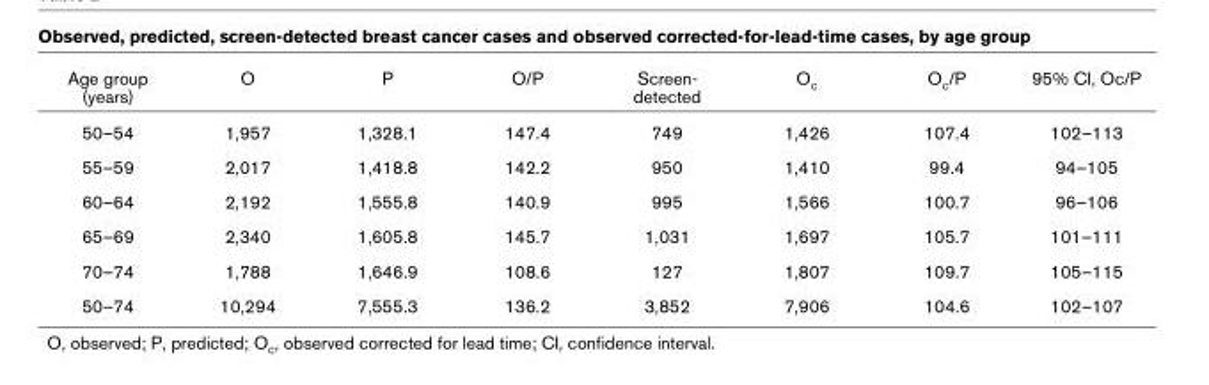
<table><thead><tr><td>Age group (years)</td><td>O</td><td>P</td><td>O/P</td><td>Screen- detected</td><td>Oc</td><td>Oc/P</td><td>95% CI, Oc/P</td></tr></thead><tbody><tr><td>50–54</td><td>1,957</td><td>1,328.1</td><td>147.4</td><td>749</td><td>1,426</td><td>107.4</td><td>102–113</td></tr><tr><td>55–59</td><td>2,017</td><td>1,418.8</td><td>142.2</td><td>950</td><td>1,410</td><td>99.4</td><td>94–105</td></tr><tr><td>60–64</td><td>2,192</td><td>1,555.8</td><td>140.9</td><td>995</td><td>1,566</td><td>100.7</td><td>96–106</td></tr><tr><td>65–69</td><td>2,340</td><td>1,605.8</td><td>145.7</td><td>1,031</td><td>1,697</td><td>105.7</td><td>101–111</td></tr><tr><td>70–74</td><td>1,788</td><td>1,646.9</td><td>108.6</td><td>127</td><td>1,807</td><td>109.7</td><td>105–115</td></tr><tr><td>50–74</td><td>10,294</td><td>7,555.3</td><td>136.2</td><td>3,852</td><td>7,906</td><td>104.6</td><td>102–107</td></tr></tbody></table>